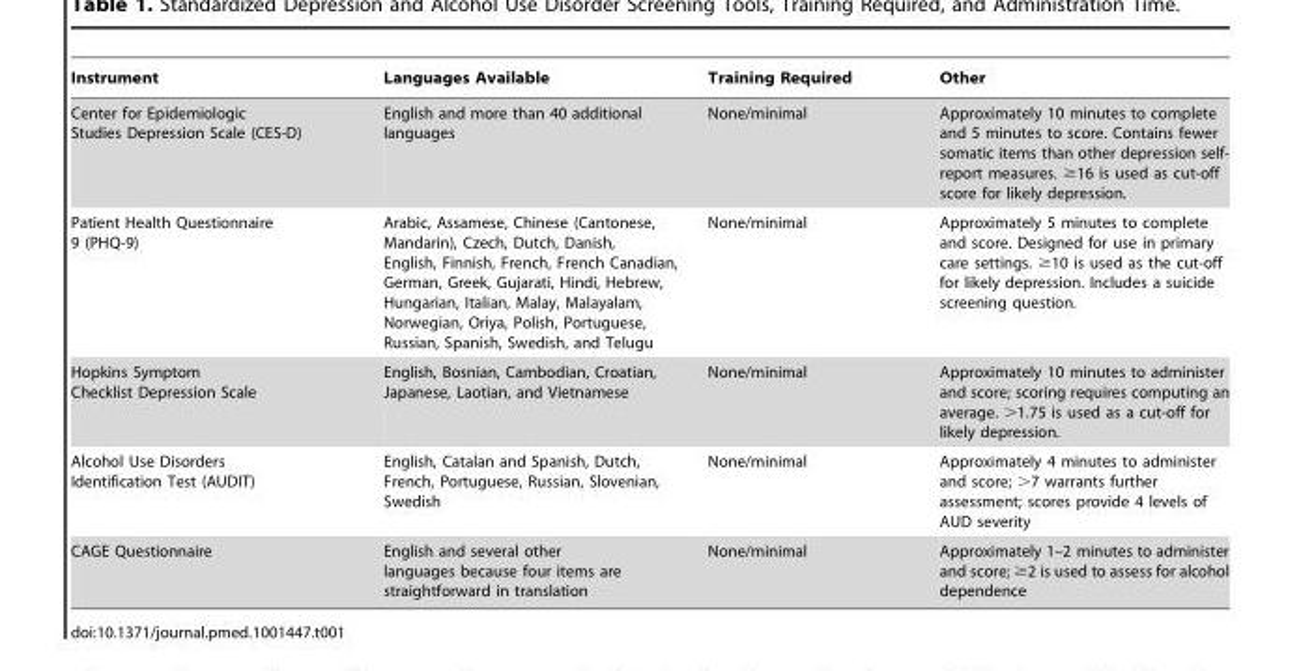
<table><thead><tr><td>Instrument</td><td>Languages Available</td><td>Training Required</td><td>Other</td></tr></thead><tbody><tr><td>Center for Epidemiologic Studies Depression Scale (CES-D)</td><td>English and more than 40 additional languages</td><td>None/minimal</td><td>Approximately 10 minutes to complete and 5 minutes to score. Contains fewer somatic items than other depression self- report measures. ≥16 is used as cut-off score for likely depression.</td></tr><tr><td>Patient Health Questionnaire 9 (PHQ-9)</td><td>Arabic, Assamese, Chinese (Cantonese, Mandarin), Czech, Dutch, Danish, English, Finnish, French, French Canadian, German, Greek, Gujarati, Hindi, Hebrew, Hungarian, Italian, Malay, Malayalam, Norwegian, Oriya, Polish, Portuguese, Russian, Spanish, Swedish, and Telugu</td><td>None/minimal</td><td>Approximately 5 minutes to complete and score. Designed for use in primary care settings. ≥10 is used as the cut-off for likely depression. Includes a suicide screening question.</td></tr><tr><td>Hopkins Symptom Checklist Depression Scale</td><td>English, Bosnian, Cambodian, Croatian, Japanese, Laotian, and Vietnamese</td><td>None/minimal</td><td>Approximately 10 minutes to administer and score; scoring requires computing an average. &gt;1.75 is used as a cut-off for likely depression.</td></tr><tr><td>Alcohol Use Disorders Identification Test (AUDIT)</td><td>English, Catalan and Spanish, Dutch, French, Portuguese, Russian, Slovenian, Swedish</td><td>None/minimal</td><td>Approximately 4 minutes to administer and score; &gt;7 warrants further assessment; scores provide 4 levels of AUD severity</td></tr><tr><td>CAGE Questionnaire</td><td>English and several other languages because four items are straightforward in translation</td><td>None/minimal</td><td>Approximately 1–2 minutes to administer and score; ≥2 is used to assess for alcohol dependence</td></tr></tbody></table>